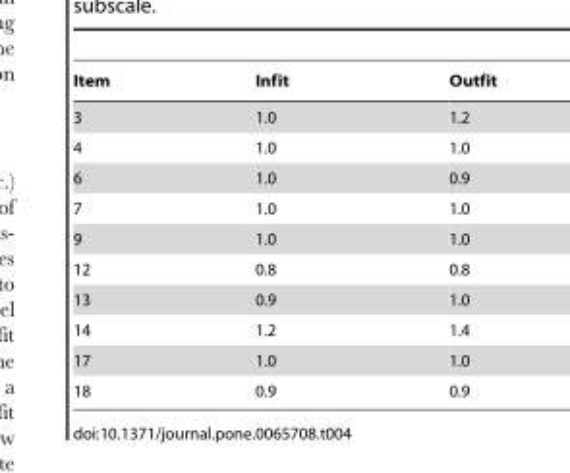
<table><thead><tr><td>Item</td><td>Infit</td><td>Outfit</td></tr></thead><tbody><tr><td>3</td><td>1.0</td><td>1.2</td></tr><tr><td>4</td><td>1.0</td><td>1.0</td></tr><tr><td>6</td><td>1.0</td><td>0.9</td></tr><tr><td>7</td><td>1.0</td><td>1.0</td></tr><tr><td>9</td><td>1.0</td><td>1.0</td></tr><tr><td>12</td><td>0.8</td><td>0.8</td></tr><tr><td>13</td><td>0.9</td><td>1.0</td></tr><tr><td>14</td><td>1.2</td><td>1.4</td></tr><tr><td>17</td><td>1.0</td><td>1.0</td></tr><tr><td>18</td><td>0.9</td><td>0.9</td></tr></tbody></table>